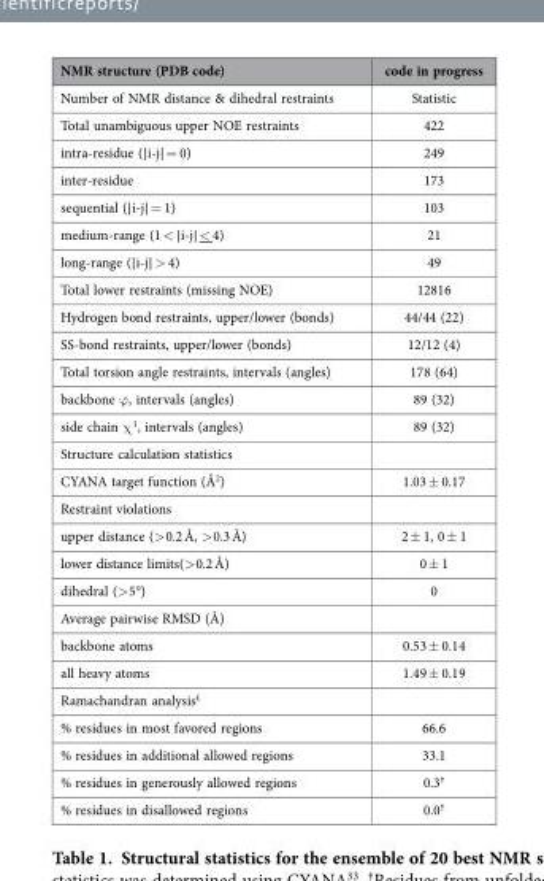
<table><thead><tr><td>NMR structure (PDB code)</td><td>code in progress</td></tr></thead><tbody><tr><td>Number of NMR distance &amp; dihedral restraints</td><td>Statistic</td></tr><tr><td>Total unambiguous upper NOE restraints</td><td>422</td></tr><tr><td>intra-residue (|i-j| = 0)</td><td>249</td></tr><tr><td>inter-residue</td><td>173</td></tr><tr><td>sequential (|i-j| = 1)</td><td>103</td></tr><tr><td>medium-range (1 &lt; |i-j| &lt; 4)</td><td>21</td></tr><tr><td>long-range (|i-j| &gt; 4)</td><td>49</td></tr><tr><td>Total lower restraints (missing NOE)</td><td>12816</td></tr><tr><td>Hydrogen bond restraints, upper/lower (bonds)</td><td>44/44 (22)</td></tr><tr><td>SS-bond restraints, upper/lower (bonds)</td><td>12/12 (4)</td></tr><tr><td>Total torsion angle restraints, intervals (angles)</td><td>178 (64)</td></tr><tr><td>backbone ϕ , intervals (angles)</td><td>89 (32)</td></tr><tr><td>side chain χ <sup>1</sup>, intervals (angles)</td><td>89 (32)</td></tr><tr><td colspan="2">Structure calculation statistics</td></tr><tr><td>CYANA target function (Å<sup>2</sup>)</td><td>1.03 ± 0.17</td></tr><tr><td colspan="2">Restraint violations</td></tr><tr><td>upper distance (&gt; 0.2 Å, &gt; 0.3 Å)</td><td>2 ± 1, 0 ± 1</td></tr><tr><td>lower distance limits(&gt; 0.2 Å)</td><td>0 ± 1</td></tr><tr><td>dihedral (&gt; 5°)</td><td>0</td></tr><tr><td colspan="2">Average pairwise RMSD (Å)</td></tr><tr><td>backbone atoms</td><td>0.53 ± 0.14</td></tr><tr><td>all heavy atoms</td><td>1.49 ± 0.19</td></tr><tr><td colspan="2">Ramachandran analysis£</td></tr><tr><td>% residues in most favored regions</td><td>66.6</td></tr><tr><td>% residues in additional allowed regions</td><td>33.1</td></tr><tr><td>% residues in generously allowed regions</td><td>0.3†</td></tr><tr><td>% residues in disallowed regions</td><td>0.0†</td></tr></tbody></table>